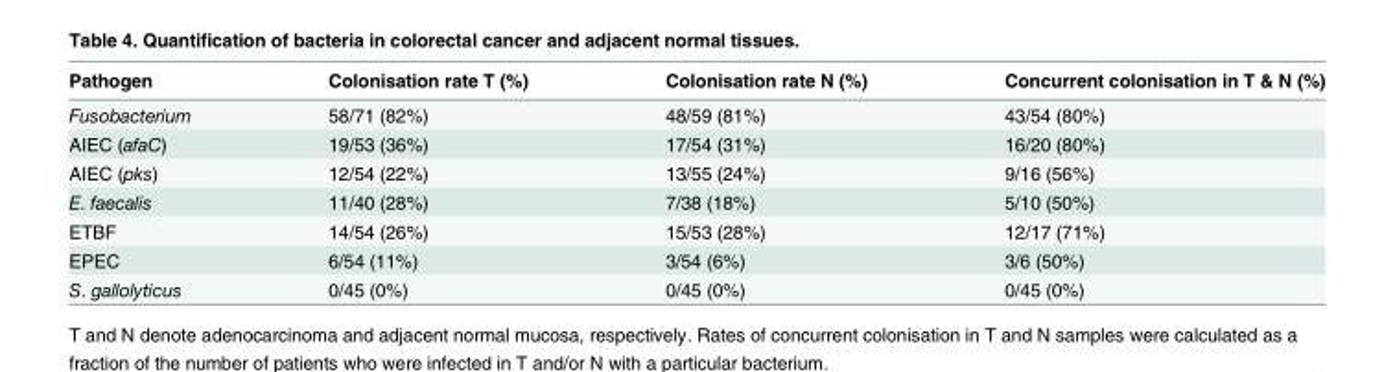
<table><thead><tr><td>Pathogen</td><td>Colonisation rate T (%)</td><td>Colonisation rate N (%)</td><td>Concurrent colonisation in T &amp; N (%)</td></tr></thead><tbody><tr><td>Fusobacterium</td><td>58/71 (82%)</td><td>48/59 (81%)</td><td>43/54 (80%)</td></tr><tr><td>AIEC (afaC)</td><td>19/53 (36%)</td><td>17/54 (31%)</td><td>16/20 (80%)</td></tr><tr><td>AIEC (pks)</td><td>12/54 (22%)</td><td>13/55 (24%)</td><td>9/16 (56%)</td></tr><tr><td>E. faecalis</td><td>11/40 (28%)</td><td>7/38 (18%)</td><td>5/10 (50%)</td></tr><tr><td>ETBF</td><td>14/54 (26%)</td><td>15/53 (28%)</td><td>12/17 (71%)</td></tr><tr><td>EPEC</td><td>6/54 (11%)</td><td>3/54 (6%)</td><td>3/6 (50%)</td></tr><tr><td>S. gallolyticus</td><td>0/45 (0%)</td><td>0/45 (0%)</td><td>0/45 (0%)</td></tr></tbody></table>